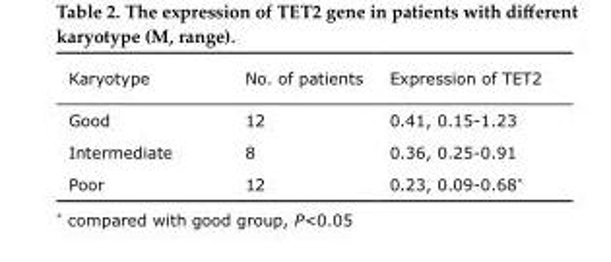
<table><thead><tr><td>Karyotype</td><td>No. of patients</td><td>Expression of TET2</td></tr></thead><tbody><tr><td>Good</td><td>12</td><td>0.41, 0.15-1.23</td></tr><tr><td>Intermediate</td><td>8</td><td>0.36, 0.25-0.91</td></tr><tr><td>Poor</td><td>12</td><td>0.23, 0.09-0.68*</td></tr></tbody></table>